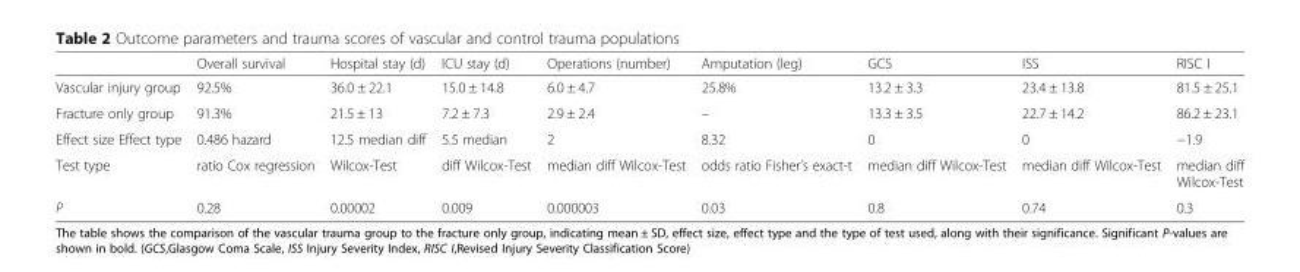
<table><thead><tr><td></td><td>Overall survival</td><td>Hospital stay (d)</td><td>ICU stay (d)</td><td>Operations (number)</td><td>Amputation (leg)</td><td>GCS</td><td>ISS</td><td>RISC I</td></tr></thead><tbody><tr><td>Vascular injury group</td><td>92.5%</td><td>36.0 ± 22.1</td><td>15.0 ± 14.8</td><td>6.0 ± 4.7</td><td>25.8%</td><td>13.2 ± 3.3</td><td>23.4 ± 13.8</td><td>81.5 ± 25.1</td></tr><tr><td>Fracture only group</td><td>91.3%</td><td>21.5 ± 13</td><td>7.2 ± 7.3</td><td>2.9 ± 2.4</td><td>–</td><td>13.3 ± 3.5</td><td>22.7 ± 14.2</td><td>86.2 ± 23.1</td></tr><tr><td>Effect size Effect type</td><td>0.486 hazard</td><td>12.5 median diff</td><td>5.5 median</td><td>2</td><td>8.32</td><td>0</td><td>0</td><td>−1.9</td></tr><tr><td>Test type</td><td>ratio Cox regression</td><td>Wilcox-Test</td><td>diff Wilcox-Test</td><td>median diff Wilcox-Test</td><td>odds ratio Fisher’s exact-t</td><td>median diff Wilcox-Test</td><td>median diff Wilcox-Test</td><td>median diff Wilcox-Test</td></tr><tr><td>P</td><td>0.28</td><td>0.00002</td><td>0.009</td><td>0.000003</td><td>0.03</td><td>0.8</td><td>0.74</td><td>0.3</td></tr></tbody></table>